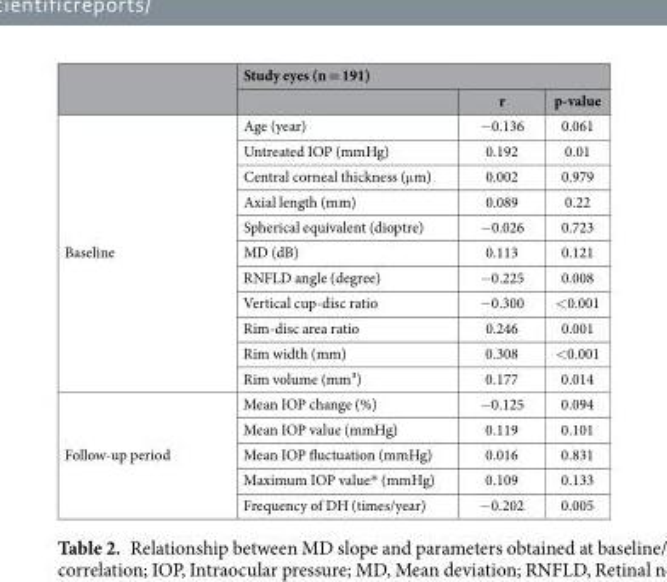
<table><thead><tr><td rowspan="2"></td><td colspan="3">Study eyes (n = 191)</td></tr><tr><td></td><td>r</td><td>p-value</td></tr></thead><tbody><tr><td rowspan="11">Baseline</td><td>Age (year)</td><td>−0.136</td><td>0.061</td></tr><tr><td>Untreated IOP (mmHg)</td><td>0.192</td><td>0.01</td></tr><tr><td>Central corneal thickness (μm)</td><td>0.002</td><td>0.979</td></tr><tr><td>Axial length (mm)</td><td>0.089</td><td>0.22</td></tr><tr><td>Spherical equivalent (dioptre)</td><td>−0.026</td><td>0.723</td></tr><tr><td>MD (dB)</td><td>0.113</td><td>0.121</td></tr><tr><td>RNFLD angle (degree)</td><td>−0.225</td><td>0.008</td></tr><tr><td>Vertical cup-disc ratio</td><td>−0.300</td><td>&lt;0.001</td></tr><tr><td>Rim-disc area ratio</td><td>0.246</td><td>0.001</td></tr><tr><td>Rim width (mm)</td><td>0.308</td><td>&lt;0.001</td></tr><tr><td>Rim volume (mm³)</td><td>0.177</td><td>0.014</td></tr><tr><td rowspan="5">Follow-up period</td><td>Mean IOP change (%)</td><td>−0.125</td><td>0.094</td></tr><tr><td>Mean IOP value (mmHg)</td><td>0.119</td><td>0.101</td></tr><tr><td>Mean IOP fluctuation (mmHg)</td><td>0.016</td><td>0.831</td></tr><tr><td>Maximum IOP value* (mmHg)</td><td>0.109</td><td>0.133</td></tr><tr><td>Frequency of DH (times/year)</td><td>−0.202</td><td>0.005</td></tr></tbody></table>